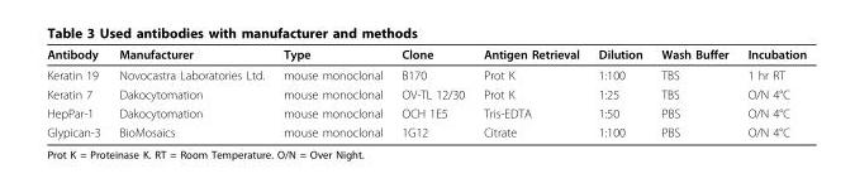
<table><thead><tr><td>Antibody</td><td>Manufacturer</td><td>Type</td><td>Clone</td><td>Antigen Retrieval</td><td>Dilution</td><td>Wash Buffer</td><td>Incubation</td></tr></thead><tbody><tr><td>Keratin 19</td><td>Novocastra Laboratories Ltd.</td><td>mouse monoclonal</td><td>B170</td><td>Prot K</td><td>1:100</td><td>TBS</td><td>1 hr RT</td></tr><tr><td>Keratin 7</td><td>Dakocytomation</td><td>mouse monoclonal</td><td>OV-TL 12/30</td><td>Prot K</td><td>1:25</td><td>TBS</td><td>O/N 4°C</td></tr><tr><td>HepPar-1</td><td>Dakocytomation</td><td>mouse monoclonal</td><td>OCH 1E5</td><td>Tris-EDTA</td><td>1:50</td><td>PBS</td><td>O/N 4°C</td></tr><tr><td>Glypican-3</td><td>BioMosaics</td><td>mouse monoclonal</td><td>1G12</td><td>Citrate</td><td>1:100</td><td>PBS</td><td>O/N 4°C</td></tr></tbody></table>